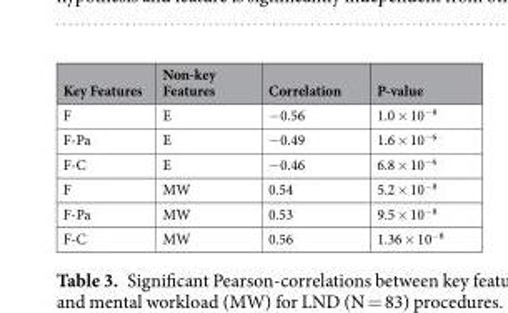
<table><thead><tr><td>Key Features</td><td>Non-key Features</td><td>Correlation</td><td>P-value</td></tr></thead><tbody><tr><td>F</td><td>E</td><td>−0.56</td><td>1.0 × 10<sup>−8</sup></td></tr><tr><td>F-Pa</td><td>E</td><td>−0.49</td><td>1.6 × 10<sup>−6</sup></td></tr><tr><td>F-C</td><td>E</td><td>−0.46</td><td>6.8 × 10<sup>−6</sup></td></tr><tr><td>F</td><td>MW</td><td>0.54</td><td>5.2 × 10<sup>−8</sup></td></tr><tr><td>F-Pa</td><td>MW</td><td>0.53</td><td>9.5 × 10<sup>−8</sup></td></tr><tr><td>F-C</td><td>MW</td><td>0.56</td><td>1.36 × 10<sup>−8</sup></td></tr></tbody></table>